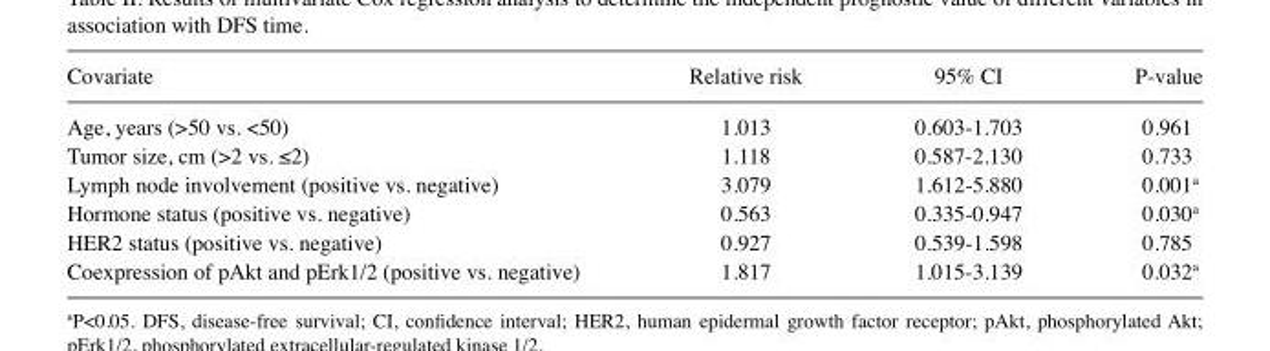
<table><thead><tr><td>Covariate</td><td>Relative risk</td><td>95% CI</td><td>P-value</td></tr></thead><tbody><tr><td>Age, years (&gt;50 vs. &lt;50)</td><td>1.013</td><td>0.603-1.703</td><td>0.961</td></tr><tr><td>Tumor size, cm (&gt;2 vs. ≤2)</td><td>1.118</td><td>0.587‑2.130</td><td>0.733</td></tr><tr><td>Lymph node involvement (positive vs. negative)</td><td>3.079</td><td>1.612-5.880</td><td>0.001<sup>a</sup></td></tr><tr><td>Hormone status (positive vs. negative)</td><td>0.563</td><td>0.335-0.947</td><td>0.030<sup>a</sup></td></tr><tr><td>HER2 status (positive vs. negative)</td><td>0.927</td><td>0.539-1.598</td><td>0.785</td></tr><tr><td>Coexpression of pAkt and pErk1/2 (positive vs. negative)</td><td>1.817</td><td>1.015-3.139</td><td>0.032<sup>a</sup></td></tr></tbody></table>